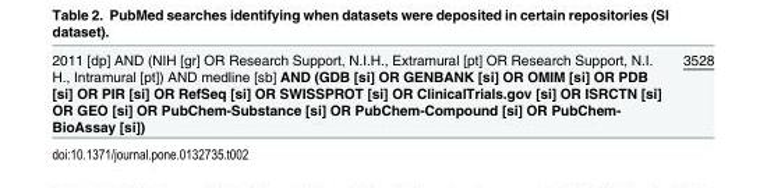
<table><tbody><tr><td>2011 [dp] AND (NIH [gr] OR Research Support, N.I.H., Extramural [pt] OR Research Support, N.I. H., Intramural [pt]) AND medline [sb] AND (GDB [si] OR GENBANK [si] OR OMIM [si] OR PDB [si] OR PIR [si] OR RefSeq [si] OR SWISSPROT [si] OR ClinicalTrials.gov [si] OR ISRCTN [si] OR GEO [si] OR PubChem-Substance [si] OR PubChem-Compound [si] OR PubChem- BioAssay [si])</td><td>3528</td></tr></tbody></table>